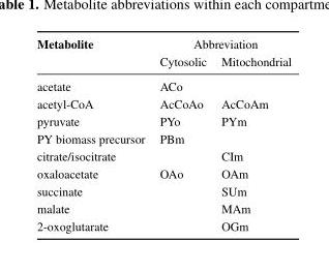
<table><thead><tr><td rowspan="2">Metabolite</td><td colspan="2">Abbreviation</td></tr><tr><td>Cytosolic</td><td>Mitochondrial</td></tr></thead><tbody><tr><td>acetate</td><td>ACo</td><td></td></tr><tr><td>acetyl-CoA</td><td>AcCoAo</td><td>AcCoAm</td></tr><tr><td>pyruvate</td><td>PYo</td><td>PYm</td></tr><tr><td>PY biomass precursor</td><td>PBm</td><td></td></tr><tr><td>citrate/isocitrate</td><td></td><td>CIm</td></tr><tr><td>oxaloacetate</td><td>OAo</td><td>OAm</td></tr><tr><td>succinate</td><td></td><td>SUm</td></tr><tr><td>malate</td><td></td><td>MAm</td></tr><tr><td>2-oxoglutarate</td><td></td><td>OGm</td></tr></tbody></table>